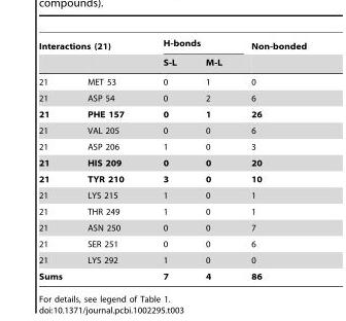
<table><thead><tr><td colspan="2">Interactions (21)</td><td colspan="2">H-bonds</td><td rowspan="2">Non-bonded</td></tr><tr><td></td><td></td><td>S-L</td><td>M-L</td></tr></thead><tbody><tr><td>21</td><td>MET 53</td><td>0</td><td>1</td><td>0</td></tr><tr><td>21</td><td>ASP 54</td><td>0</td><td>2</td><td>6</td></tr><tr><td>21</td><td>PHE 157</td><td>0</td><td>1</td><td>26</td></tr><tr><td>21</td><td>VAL 205</td><td>0</td><td>0</td><td>6</td></tr><tr><td>21</td><td>ASP 206</td><td>1</td><td>0</td><td>3</td></tr><tr><td>21</td><td>HIS 209</td><td>0</td><td>0</td><td>20</td></tr><tr><td>21</td><td>TYR 210</td><td>3</td><td>0</td><td>10</td></tr><tr><td>21</td><td>LYS 215</td><td>1</td><td>0</td><td>1</td></tr><tr><td>21</td><td>THR 249</td><td>1</td><td>0</td><td>1</td></tr><tr><td>21</td><td>ASN 250</td><td>0</td><td>0</td><td>7</td></tr><tr><td>21</td><td>SER 251</td><td>0</td><td>0</td><td>6</td></tr><tr><td>21</td><td>LYS 292</td><td>1</td><td>0</td><td>0</td></tr><tr><td>Sums</td><td></td><td>7</td><td>4</td><td>86</td></tr></tbody></table>